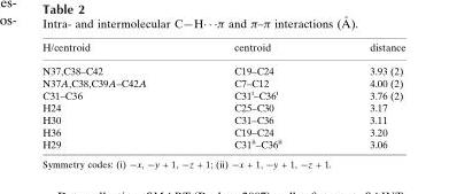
<table><tbody><tr><td>H/centroid</td><td>centroid</td><td>distance</td></tr><tr><td>N37,C38–C42</td><td>C19–C24</td><td>3.93 (2)</td></tr><tr><td>N37A,C38,C39A–C42A</td><td>C7–C12</td><td>4.00 (2)</td></tr><tr><td>C31–C36</td><td>C31<sup>i</sup>–C36<sup>i</sup></td><td>3.76 (2)</td></tr><tr><td>H24</td><td>C25–C30</td><td>3.17</td></tr><tr><td>H30</td><td>C31–C36</td><td>3.11</td></tr><tr><td>H36</td><td>C19–C24</td><td>3.20</td></tr><tr><td>H29</td><td>C31<sup>ii</sup>–C36<sup>ii</sup></td><td>3.06</td></tr></tbody></table>